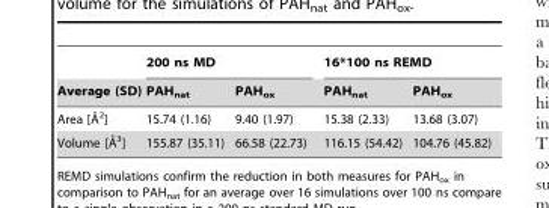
<table><thead><tr><td rowspan="2">Average (SD)</td><td colspan="2">200 ns MD</td><td colspan="2">16*100 ns REMD</td></tr><tr><td>PAH<sub>nat</sub></td><td>PAH<sub>ox</sub></td><td>PAH<sub>nat</sub></td><td>PAH<sub>ox</sub></td></tr></thead><tbody><tr><td>Area [A˚2]</td><td>15.74 (1.16)</td><td>9.40 (1.97)</td><td>15.38 (2.33)</td><td>13.68 (3.07)</td></tr><tr><td>Volume [A˚3]</td><td>155.87 (35.11)</td><td>66.58 (22.73)</td><td>116.15 (54.42)</td><td>104.76 (45.82)</td></tr></tbody></table>